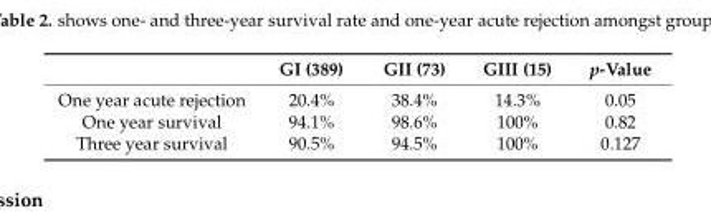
<table><thead><tr><td></td><td>GI (389)</td><td>GII (73)</td><td>GIII (15)</td><td>p-Value</td></tr></thead><tbody><tr><td>One year acute rejection</td><td>20.4%</td><td>38.4%</td><td>14.3%</td><td>0.05</td></tr><tr><td>One year survival</td><td>94.1%</td><td>98.6%</td><td>100%</td><td>0.82</td></tr><tr><td>Three year survival</td><td>90.5%</td><td>94.5%</td><td>100%</td><td>0.127</td></tr></tbody></table>